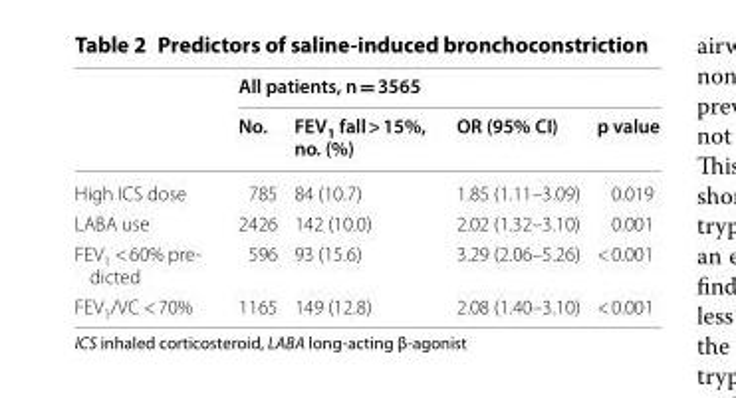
<table><thead><tr><td rowspan="2"></td><td colspan="4">All patients, n = 3565</td></tr><tr><td>No.</td><td>FEV<sub>1</sub> fall &gt; 15%, no. (%)</td><td>OR (95% CI)</td><td>p value</td></tr></thead><tbody><tr><td>High ICS dose</td><td>785</td><td>84 (10.7)</td><td>1.85 (1.11–3.09)</td><td>0.019</td></tr><tr><td>LABA use</td><td>2426</td><td>142 (10.0)</td><td>2.02 (1.32–3.10)</td><td>0.001</td></tr><tr><td>FEV1 &lt; 60% pre- dicted</td><td>596</td><td>93 (15.6)</td><td>3.29 (2.06–5.26)</td><td>&lt; 0.001</td></tr><tr><td>FEV<sub>1</sub>/VC &lt; 70%</td><td>1165</td><td>149 (12.8)</td><td>2.08 (1.40–3.10)</td><td>&lt; 0.001</td></tr></tbody></table>